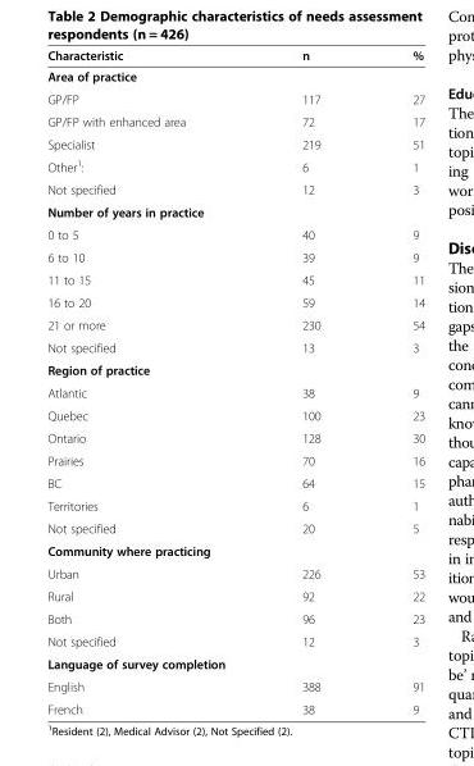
<table><thead><tr><td>Characteristic</td><td>n</td><td>%</td></tr></thead><tbody><tr><td colspan="3">Area of practice</td></tr><tr><td>GP/FP</td><td>117</td><td>27</td></tr><tr><td>GP/FP with enhanced area</td><td>72</td><td>17</td></tr><tr><td>Specialist</td><td>219</td><td>51</td></tr><tr><td>Other<sup>1</sup>:</td><td>6</td><td>1</td></tr><tr><td>Not specified</td><td>12</td><td>3</td></tr><tr><td colspan="3">Number of years in practice</td></tr><tr><td>0 to 5</td><td>40</td><td>9</td></tr><tr><td>6 to 10</td><td>39</td><td>9</td></tr><tr><td>11 to 15</td><td>45</td><td>11</td></tr><tr><td>16 to 20</td><td>59</td><td>14</td></tr><tr><td>21 or more</td><td>230</td><td>54</td></tr><tr><td>Not specified</td><td>13</td><td>3</td></tr><tr><td colspan="3">Region of practice</td></tr><tr><td>Atlantic</td><td>38</td><td>9</td></tr><tr><td>Quebec</td><td>100</td><td>23</td></tr><tr><td>Ontario</td><td>128</td><td>30</td></tr><tr><td>Prairies</td><td>70</td><td>16</td></tr><tr><td>BC</td><td>64</td><td>15</td></tr><tr><td>Territories</td><td>6</td><td>1</td></tr><tr><td>Not specified</td><td>20</td><td>5</td></tr><tr><td colspan="3">Community where practicing</td></tr><tr><td>Urban</td><td>226</td><td>53</td></tr><tr><td>Rural</td><td>92</td><td>22</td></tr><tr><td>Both</td><td>96</td><td>23</td></tr><tr><td>Not specified</td><td>12</td><td>3</td></tr><tr><td colspan="3">Language of survey completion</td></tr><tr><td>English</td><td>388</td><td>91</td></tr><tr><td>French</td><td>38</td><td>9</td></tr></tbody></table>